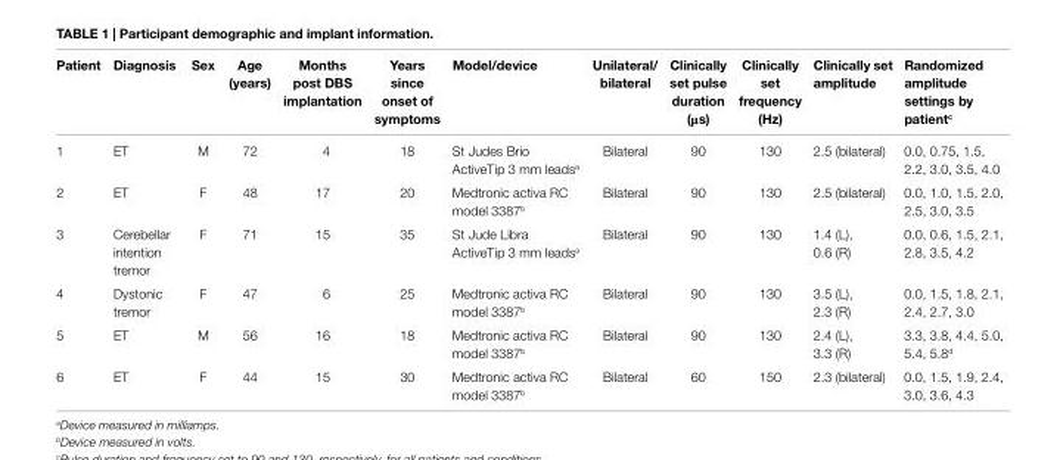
<table><thead><tr><td>Patient</td><td>Diagnosis</td><td>sex</td><td>age (years)</td><td>Months post DBs implantation</td><td>Years since onset of symptoms</td><td>Model/device</td><td>Unilateral/ bilateral</td><td>clinically set pulse duration (μs)</td><td>clinically set frequency (hz)</td><td>clinically set amplitude</td><td>randomized amplitude settings by patient<sup>c</sup></td></tr></thead><tbody><tr><td>1</td><td>ET</td><td>M</td><td>72</td><td>4</td><td>18</td><td>St Judes Brio ActiveTip 3 mm leads<sup>a</sup></td><td>Bilateral</td><td>90</td><td>130</td><td>2.5 (bilateral)</td><td>0.0, 0.75, 1.5, 2.2, 3.0, 3.5, 4.0</td></tr><tr><td>2</td><td>ET</td><td>F</td><td>48</td><td>17</td><td>20</td><td>Medtronic activa RC model 3387<sup>b</sup></td><td>Bilateral</td><td>90</td><td>130</td><td>2.5 (bilateral)</td><td>0.0, 1.0, 1.5, 2.0, 2.5, 3.0, 3.5</td></tr><tr><td>3</td><td>Cerebellar intention tremor</td><td>F</td><td>71</td><td>15</td><td>35</td><td>St Jude Libra ActiveTip 3 mm leads<sup>a</sup></td><td>Bilateral</td><td>90</td><td>130</td><td>1.4 (L), 0.6 (R)</td><td>0.0, 0.6, 1.5, 2.1, 2.8, 3.5, 4.2</td></tr><tr><td>4</td><td>Dystonic tremor</td><td>F</td><td>47</td><td>6</td><td>25</td><td>Medtronic activa RC model 3387<sup>b</sup></td><td>Bilateral</td><td>90</td><td>130</td><td>3.5 (L), 2.3 (R)</td><td>0.0, 1.5, 1.8, 2.1, 2.4, 2.7, 3.0</td></tr><tr><td>5</td><td>ET</td><td>M</td><td>56</td><td>16</td><td>18</td><td>Medtronic activa RC model 3387<sup>b</sup></td><td>Bilateral</td><td>90</td><td>130</td><td>2.4 (L), 3.3 (R)</td><td>3.3, 3.8, 4.4, 5.0, 5.4, 5.8<sup>d</sup></td></tr><tr><td>6</td><td>ET</td><td>F</td><td>44</td><td>15</td><td>30</td><td>Medtronic activa RC model 3387<sup>b</sup></td><td>Bilateral</td><td>60</td><td>150</td><td>2.3 (bilateral)</td><td>0.0, 1.5, 1.9, 2.4, 3.0, 3.6, 4.3</td></tr></tbody></table>